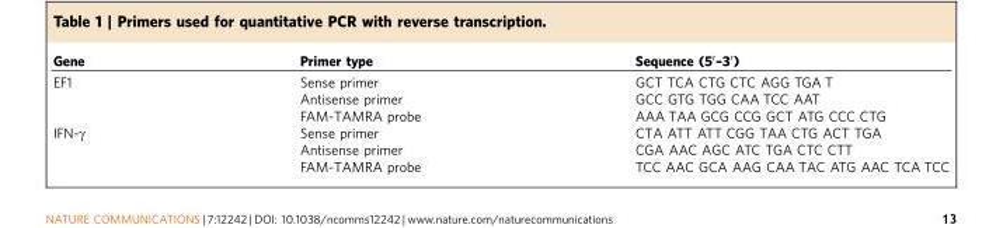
<table><thead><tr><td>Gene</td><td>Primer type</td><td>Sequence (5′–3′)</td></tr></thead><tbody><tr><td rowspan="3">EF1</td><td>Sense primer</td><td>GCT TCA CTG CTC AGG TGA T</td></tr><tr><td>Antisense primer</td><td>GCC GTG TGG CAA TCC AAT</td></tr><tr><td>FAM-TAMRA probe</td><td>AAA TAA GCG CCG GCT ATG CCC CTG</td></tr><tr><td rowspan="3">IFN-γ</td><td>Sense primer</td><td>CTA ATT ATT CGG TAA CTG ACT TGA</td></tr><tr><td>Antisense primer</td><td>CGA AAC AGC ATC TGA CTC CTT</td></tr><tr><td>FAM-TAMRA probe</td><td>TCC AAC GCA AAG CAA TAC ATG AAC TCA TCC</td></tr></tbody></table>